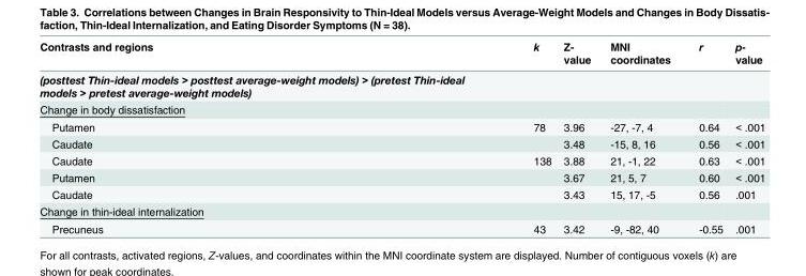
<table><thead><tr><td>Contrasts and regions</td><td>k</td><td>Z- value</td><td>MNI coordinates</td><td>r</td><td>p- value</td></tr></thead><tbody><tr><td colspan="6">(posttest Thin-ideal models &gt; posttest average-weight models) &gt; (pretest Thin-ideal models &gt; pretest average-weight models)</td></tr><tr><td colspan="6">Change in body dissatisfaction</td></tr><tr><td>Putamen</td><td>78</td><td>3.96</td><td>-27, -7, 4</td><td>0.64</td><td>&lt; .001</td></tr><tr><td>Caudate</td><td></td><td>3.48</td><td>-15, 8, 16</td><td>0.56</td><td>&lt; .001</td></tr><tr><td>Caudate</td><td>138</td><td>3.88</td><td>21, -1, 22</td><td>0.63</td><td>&lt; .001</td></tr><tr><td>Putamen</td><td></td><td>3.67</td><td>21, 5, 7</td><td>0.60</td><td>&lt; .001</td></tr><tr><td>Caudate</td><td></td><td>3.43</td><td>15, 17, -5</td><td>0.56</td><td>.001</td></tr><tr><td colspan="6">Change in thin-ideal internalization</td></tr><tr><td>Precuneus</td><td>43</td><td>3.42</td><td>-9, -82, 40</td><td>-0.55</td><td>.001</td></tr></tbody></table>